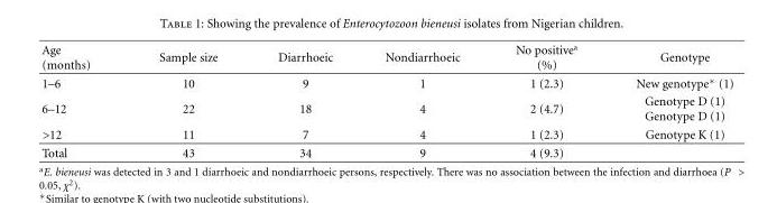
<table><thead><tr><td>Age (months)</td><td>Sample size</td><td>Diarrhoeic</td><td>Nondiarrhoeic</td><td>No positive<sup>a</sup> (%)</td><td>Genotype</td></tr></thead><tbody><tr><td>1–6</td><td>10</td><td>9</td><td>1</td><td>1 (2.3)</td><td>New genotype∗ (1)</td></tr><tr><td>6–12</td><td>22</td><td>18</td><td>4</td><td>2 (4.7)</td><td>Genotype D (1) Genotype D (1)</td></tr><tr><td>&gt;12</td><td>11</td><td>7</td><td>4</td><td>1 (2.3)</td><td>Genotype K (1)</td></tr><tr><td>Total</td><td>43</td><td>34</td><td>9</td><td>4 (9.3)</td><td></td></tr></tbody></table>